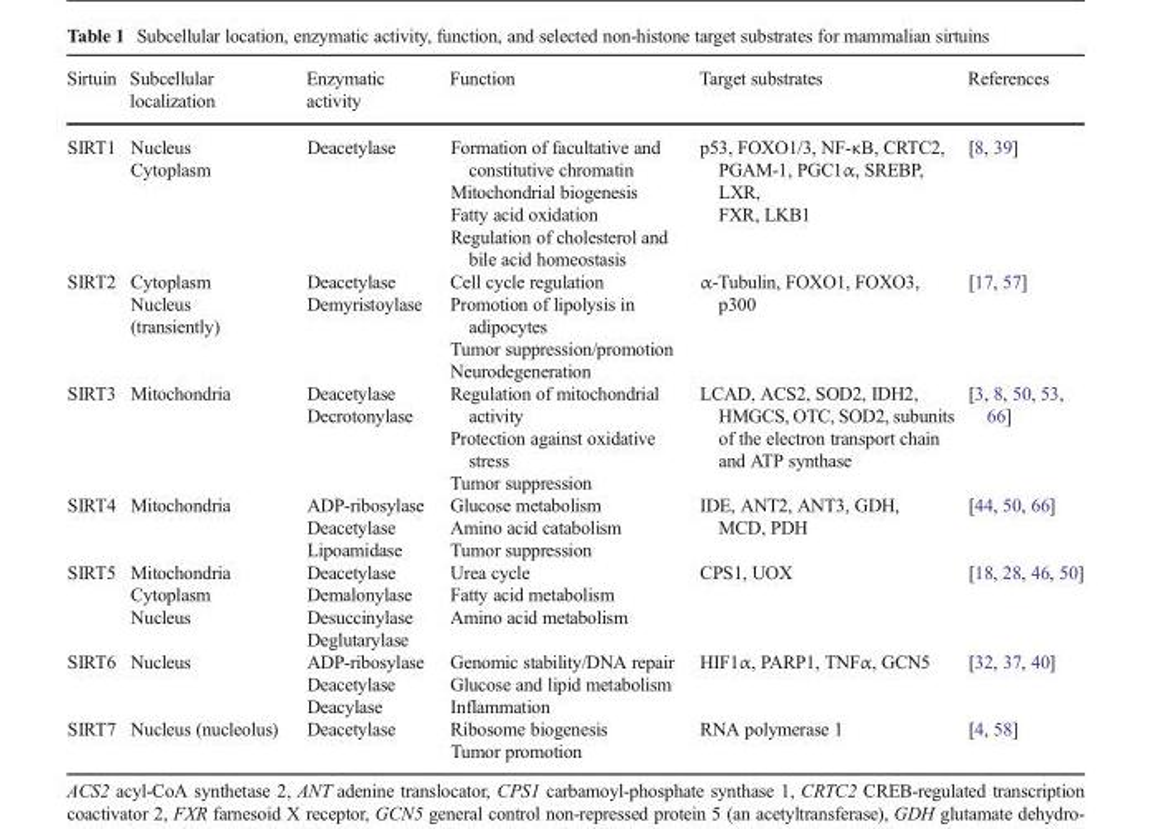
<table><thead><tr><td>Sirtuin</td><td>Subcellular localization</td><td>Enzymatic activity</td><td>Function</td><td>Target substrates</td><td>References</td></tr></thead><tbody><tr><td>SIRT1</td><td>Nucleus Cytoplasm</td><td>Deacetylase</td><td>Formation of facultative and constitutive chromatin Mitochondrial biogenesis Fatty acid oxidation Regulation of cholesterol and bile acid homeostasis</td><td>p53, FOXO1/3, NF-κB, CRTC2, PGAM-1, PGC1α, SREBP, LXR, FXR, LKB1</td><td>[8, 39]</td></tr><tr><td>SIRT2</td><td>Cytoplasm Nucleus (transiently)</td><td>Deacetylase Demyristoylase</td><td>Cell cycle regulation Promotion of lipolysis in adipocytes Tumor suppression/promotion Neurodegeneration</td><td>α-Tubulin, FOXO1, FOXO3, p300</td><td>[17, 57]</td></tr><tr><td>SIRT3</td><td>Mitochondria</td><td>Deacetylase Decrotonylase</td><td>Regulation of mitochondrial activity Protection against oxidative stress Tumor suppression</td><td>LCAD, ACS2, SOD2, IDH2, HMGCS, OTC, SOD2, subunits of the electron transport chain and ATP synthase</td><td>[3, 8, 50, 53, 66]</td></tr><tr><td>SIRT4</td><td>Mitochondria</td><td>ADP-ribosylase Deacetylase Lipoamidase</td><td>Glucose metabolism Amino acid catabolism Tumor suppression</td><td>IDE, ANT2, ANT3, GDH, MCD, PDH</td><td>[44, 50, 66]</td></tr><tr><td>SIRT5</td><td>Mitochondria Cytoplasm Nucleus</td><td>Deacetylase Demalonylase Desuccinylase Deglutarylase</td><td>Urea cycle Fatty acid metabolism Amino acid metabolism</td><td>CPS1, UOX</td><td>[18, 28, 46, 50]</td></tr><tr><td>SIRT6</td><td>Nucleus</td><td>ADP-ribosylase Deacetylase Deacylase</td><td>Genomic stability/DNA repair Glucose and lipid metabolism Inflammation</td><td>HIF1α, PARP1, TNFα, GCN5</td><td>[32, 37, 40]</td></tr><tr><td>SIRT7</td><td>Nucleus (nucleolus)</td><td>Deacetylase</td><td>Ribosome biogenesis Tumor promotion</td><td>RNA polymerase 1</td><td>[4, 58]</td></tr></tbody></table>